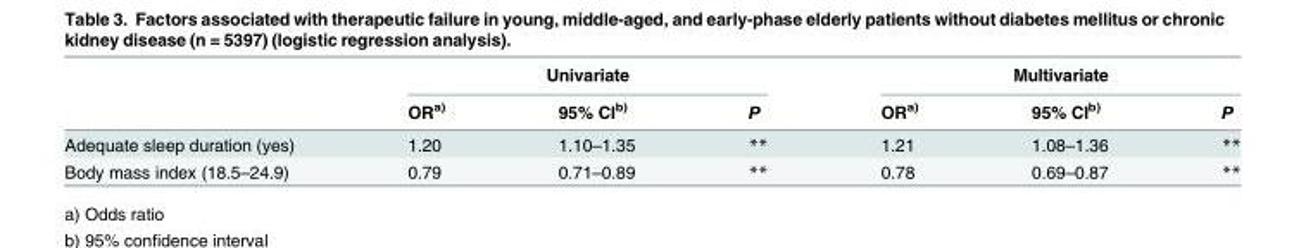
<table><thead><tr><td rowspan="2"></td><td colspan="3">Univariate</td><td colspan="3">Multivariate</td></tr><tr><td>OR<sup>a)</sup></td><td>95% CI<sup>b)</sup></td><td>P</td><td>OR<sup>a)</sup></td><td>95% CI<sup>b)</sup></td><td>P</td></tr></thead><tbody><tr><td>Adequate sleep duration (yes)</td><td>1.20</td><td>1.10–1.35</td><td>**</td><td>1.21</td><td>1.08–1.36</td><td>**</td></tr><tr><td>Body mass index (18.5–24.9)</td><td>0.79</td><td>0.71–0.89</td><td>**</td><td>0.78</td><td>0.69–0.87</td><td>**</td></tr></tbody></table>